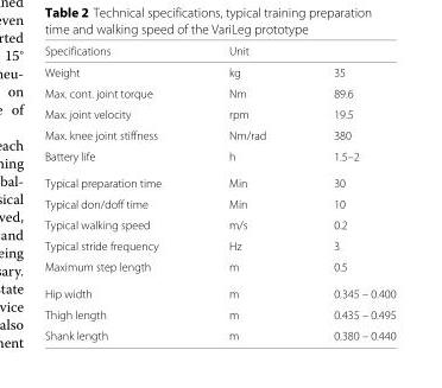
<table><thead><tr><td>Specifications</td><td>Unit</td><td></td></tr></thead><tbody><tr><td>Weight</td><td>kg</td><td>35</td></tr><tr><td>Max. cont. joint torque</td><td>Nm</td><td>89.6</td></tr><tr><td>Max. joint velocity</td><td>rpm</td><td>19.5</td></tr><tr><td>Max. knee joint stiffness</td><td>Nm/rad</td><td>380</td></tr><tr><td>Battery life</td><td>h</td><td>1.5–2</td></tr><tr><td>Typical preparation time</td><td>Min</td><td>30</td></tr><tr><td>Typical don/doff time</td><td>Min</td><td>10</td></tr><tr><td>Typical walking speed</td><td>m/s</td><td>0.2</td></tr><tr><td>Typical stride frequency</td><td>Hz</td><td>3</td></tr><tr><td>Maximum step length</td><td>m</td><td>0.5</td></tr><tr><td>Hip width</td><td>m</td><td>0.345 – 0.400</td></tr><tr><td>Thigh length</td><td>m</td><td>0.435 – 0.495</td></tr><tr><td>Shank length</td><td>m</td><td>0.380 – 0.440</td></tr></tbody></table>